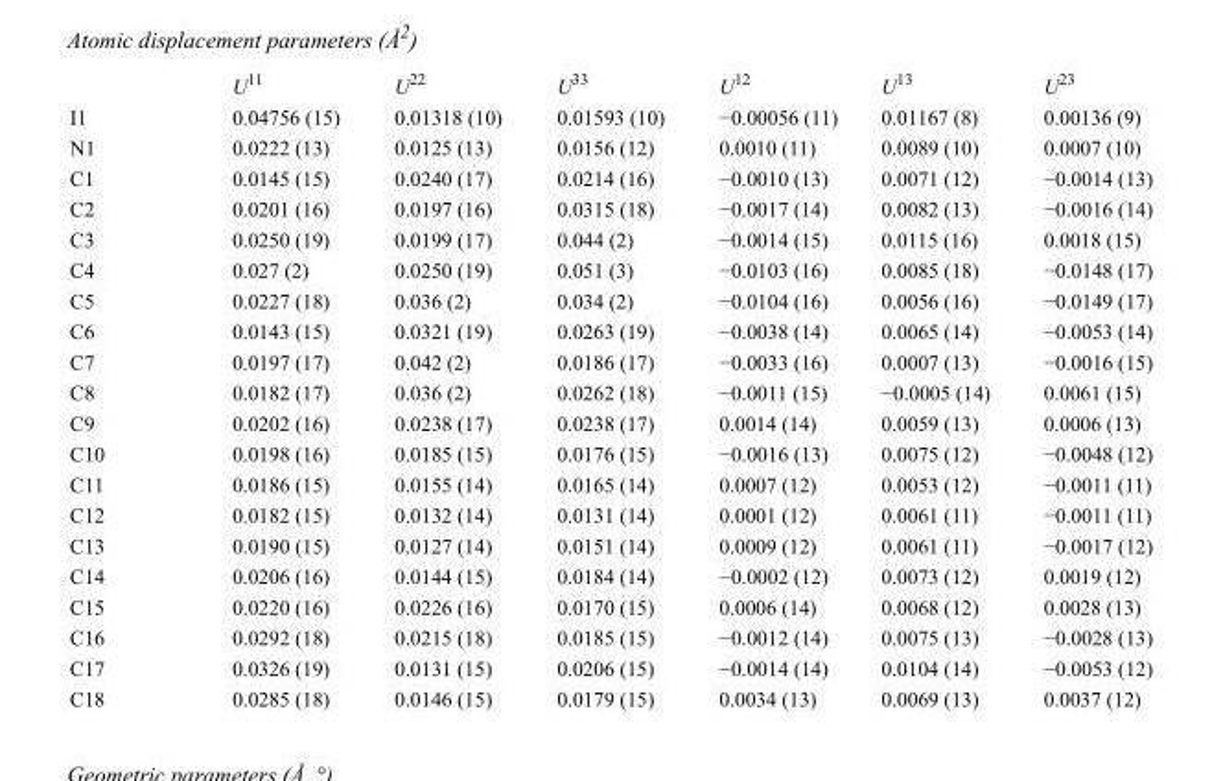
<table><thead><tr><td></td><td>U<sup>11</sup></td><td>U<sup>22</sup></td><td>U<sup>33</sup></td><td>U<sup>12</sup></td><td>U<sup>13</sup></td><td>U<sup>23</sup></td></tr></thead><tbody><tr><td>I1</td><td>0.04756 (15)</td><td>0.01318 (10)</td><td>0.01593 (10)</td><td>−0.00056 (11)</td><td>0.01167 (8)</td><td>0.00136 (9)</td></tr><tr><td>N1</td><td>0.0222 (13)</td><td>0.0125 (13)</td><td>0.0156 (12)</td><td>0.0010 (11)</td><td>0.0089 (10)</td><td>0.0007 (10)</td></tr><tr><td>C1</td><td>0.0145 (15)</td><td>0.0240 (17)</td><td>0.0214 (16)</td><td>−0.0010 (13)</td><td>0.0071 (12)</td><td>−0.0014 (13)</td></tr><tr><td>C2</td><td>0.0201 (16)</td><td>0.0197 (16)</td><td>0.0315 (18)</td><td>−0.0017 (14)</td><td>0.0082 (13)</td><td>−0.0016 (14)</td></tr><tr><td>C3</td><td>0.0250 (19)</td><td>0.0199 (17)</td><td>0.044 (2)</td><td>−0.0014 (15)</td><td>0.0115 (16)</td><td>0.0018 (15)</td></tr><tr><td>C4</td><td>0.027 (2)</td><td>0.0250 (19)</td><td>0.051 (3)</td><td>−0.0103 (16)</td><td>0.0085 (18)</td><td>−0.0148 (17)</td></tr><tr><td>C5</td><td>0.0227 (18)</td><td>0.036 (2)</td><td>0.034 (2)</td><td>−0.0104 (16)</td><td>0.0056 (16)</td><td>−0.0149 (17)</td></tr><tr><td>C6</td><td>0.0143 (15)</td><td>0.0321 (19)</td><td>0.0263 (19)</td><td>−0.0038 (14)</td><td>0.0065 (14)</td><td>−0.0053 (14)</td></tr><tr><td>C7</td><td>0.0197 (17)</td><td>0.042 (2)</td><td>0.0186 (17)</td><td>−0.0033 (16)</td><td>0.0007 (13)</td><td>−0.0016 (15)</td></tr><tr><td>C8</td><td>0.0182 (17)</td><td>0.036 (2)</td><td>0.0262 (18)</td><td>−0.0011 (15)</td><td>−0.0005 (14)</td><td>0.0061 (15)</td></tr><tr><td>C9</td><td>0.0202 (16)</td><td>0.0238 (17)</td><td>0.0238 (17)</td><td>0.0014 (14)</td><td>0.0059 (13)</td><td>0.0006 (13)</td></tr><tr><td>C10</td><td>0.0198 (16)</td><td>0.0185 (15)</td><td>0.0176 (15)</td><td>−0.0016 (13)</td><td>0.0075 (12)</td><td>−0.0048 (12)</td></tr><tr><td>C11</td><td>0.0186 (15)</td><td>0.0155 (14)</td><td>0.0165 (14)</td><td>0.0007 (12)</td><td>0.0053 (12)</td><td>−0.0011 (11)</td></tr><tr><td>C12</td><td>0.0182 (15)</td><td>0.0132 (14)</td><td>0.0131 (14)</td><td>0.0001 (12)</td><td>0.0061 (11)</td><td>−0.0011 (11)</td></tr><tr><td>C13</td><td>0.0190 (15)</td><td>0.0127 (14)</td><td>0.0151 (14)</td><td>0.0009 (12)</td><td>0.0061 (11)</td><td>−0.0017 (12)</td></tr><tr><td>C14</td><td>0.0206 (16)</td><td>0.0144 (15)</td><td>0.0184 (14)</td><td>−0.0002 (12)</td><td>0.0073 (12)</td><td>0.0019 (12)</td></tr><tr><td>C15</td><td>0.0220 (16)</td><td>0.0226 (16)</td><td>0.0170 (15)</td><td>0.0006 (14)</td><td>0.0068 (12)</td><td>0.0028 (13)</td></tr><tr><td>C16</td><td>0.0292 (18)</td><td>0.0215 (18)</td><td>0.0185 (15)</td><td>−0.0012 (14)</td><td>0.0075 (13)</td><td>−0.0028 (13)</td></tr><tr><td>C17</td><td>0.0326 (19)</td><td>0.0131 (15)</td><td>0.0206 (15)</td><td>−0.0014 (14)</td><td>0.0104 (14)</td><td>−0.0053 (12)</td></tr><tr><td>C18</td><td>0.0285 (18)</td><td>0.0146 (15)</td><td>0.0179 (15)</td><td>0.0034 (13)</td><td>0.0069 (13)</td><td>0.0037 (12)</td></tr></tbody></table>